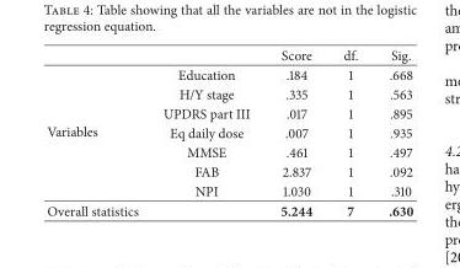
<table><thead><tr><td></td><td></td><td>Score</td><td>df.</td><td>Sig.</td></tr></thead><tbody><tr><td rowspan="7">Variables</td><td>Education</td><td>.184</td><td>1</td><td>.668</td></tr><tr><td>H/Y stage</td><td>.335</td><td>1</td><td>.563</td></tr><tr><td>UPDRS part III</td><td>.017</td><td>1</td><td>.895</td></tr><tr><td>Eq daily dose</td><td>.007</td><td>1</td><td>.935</td></tr><tr><td>MMSE</td><td>.461</td><td>1</td><td>.497</td></tr><tr><td>FAB</td><td>2.837</td><td>1</td><td>.092</td></tr><tr><td>NPI</td><td>1.030</td><td>1</td><td>.310</td></tr><tr><td>Overall statistics</td><td></td><td>5.244</td><td>7</td><td>.630</td></tr></tbody></table>